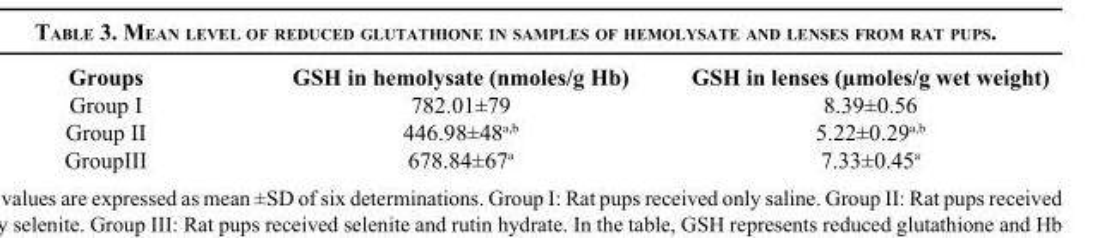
<table><thead><tr><td>Groups</td><td>GSH in hemolysate (nmoles/g Hb)</td><td>GSH in lenses (µmoles/g wet weight)</td></tr></thead><tbody><tr><td>Group I</td><td>782.01±79</td><td>8.39±0.56</td></tr><tr><td>Group II</td><td>446.98±48<sup>a,b</sup></td><td>5.22±0.29<sup>a,b</sup></td></tr><tr><td>GroupIII</td><td>678.84±67<sup>a</sup></td><td>7.33±0.45<sup>a</sup></td></tr></tbody></table>